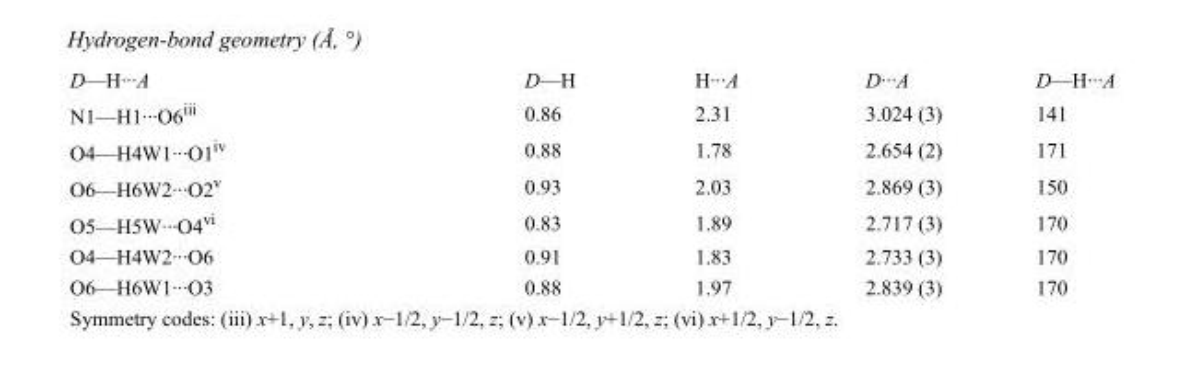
<table><tbody><tr><td>D—H···A</td><td>D—H</td><td>H···A</td><td>D···A</td><td>D—H···A</td></tr><tr><td>N1—H1···O6<sup>iii</sup></td><td>0.86</td><td>2.31</td><td>3.024 (3)</td><td>141</td></tr><tr><td>O4—H4W1···O1<sup>iv</sup></td><td>0.88</td><td>1.78</td><td>2.654 (2)</td><td>171</td></tr><tr><td>O6—H6W2···O2<sup>v</sup></td><td>0.93</td><td>2.03</td><td>2.869 (3)</td><td>150</td></tr><tr><td>O5—H5W···O4<sup>vi</sup></td><td>0.83</td><td>1.89</td><td>2.717 (3)</td><td>170</td></tr><tr><td>O4—H4W2···O6</td><td>0.91</td><td>1.83</td><td>2.733 (3)</td><td>170</td></tr><tr><td>O6—H6W1···O3</td><td>0.88</td><td>1.97</td><td>2.839 (3)</td><td>170</td></tr></tbody></table>